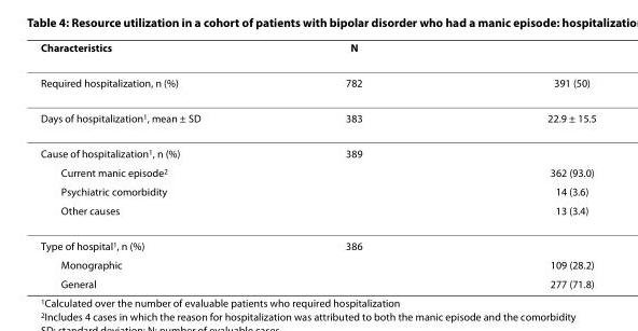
<table><thead><tr><td>Characteristics</td><td>N</td><td></td></tr></thead><tbody><tr><td>Required hospitalization, n (%)</td><td>782</td><td>391 (50)</td></tr><tr><td>Days of hospitalization<sup>1</sup>, mean ± SD</td><td>383</td><td>22.9 ± 15.5</td></tr><tr><td>Cause of hospitalization<sup>1</sup>, n (%)</td><td>389</td><td></td></tr><tr><td>Current manic episode<sup>2</sup></td><td></td><td>362 (93.0)</td></tr><tr><td>Psychiatric comorbidity</td><td></td><td>14 (3.6)</td></tr><tr><td>Other causes</td><td></td><td>13 (3.4)</td></tr><tr><td>Type of hospital<sup>1</sup>, n (%)</td><td>386</td><td></td></tr><tr><td>Monographic</td><td></td><td>109 (28.2)</td></tr><tr><td>General</td><td></td><td>277 (71.8)</td></tr></tbody></table>